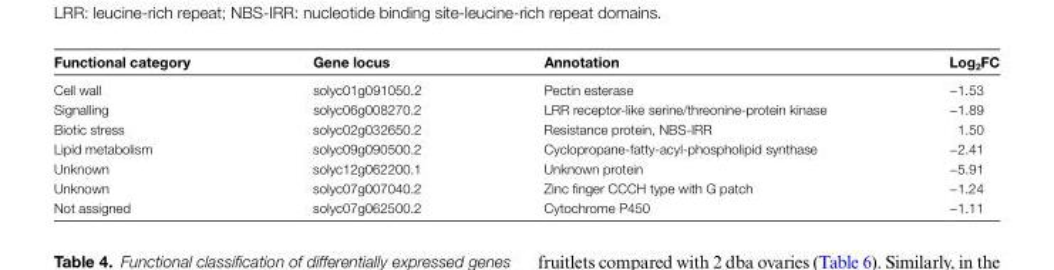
<table><thead><tr><td>Functional category</td><td>Gene locus</td><td>Annotation</td><td>Log<sub>2</sub>FC</td></tr></thead><tbody><tr><td>Cell wall</td><td>solyc01g091050.2</td><td>Pectin esterase</td><td>−1.53</td></tr><tr><td>Signalling</td><td>solyc06g008270.2</td><td>LRR receptor-like serine/threonine-protein kinase</td><td>−1.89</td></tr><tr><td>Biotic stress</td><td>solyc02g032650.2</td><td>Resistance protein, NBS-IRR</td><td>1.50</td></tr><tr><td>Lipid metabolism</td><td>solyc09g090500.2</td><td>Cyclopropane-fatty-acyl-phospholipid synthase</td><td>−2.41</td></tr><tr><td>Unknown</td><td>solyc12g062200.1</td><td>Unknown protein</td><td>−5.91</td></tr><tr><td>Unknown</td><td>solyc07g007040.2</td><td>Zinc finger CCCH type with G patch</td><td>−1.24</td></tr><tr><td>Not assigned</td><td>solyc07g062500.2</td><td>Cytochrome P450</td><td>−1.11</td></tr></tbody></table>